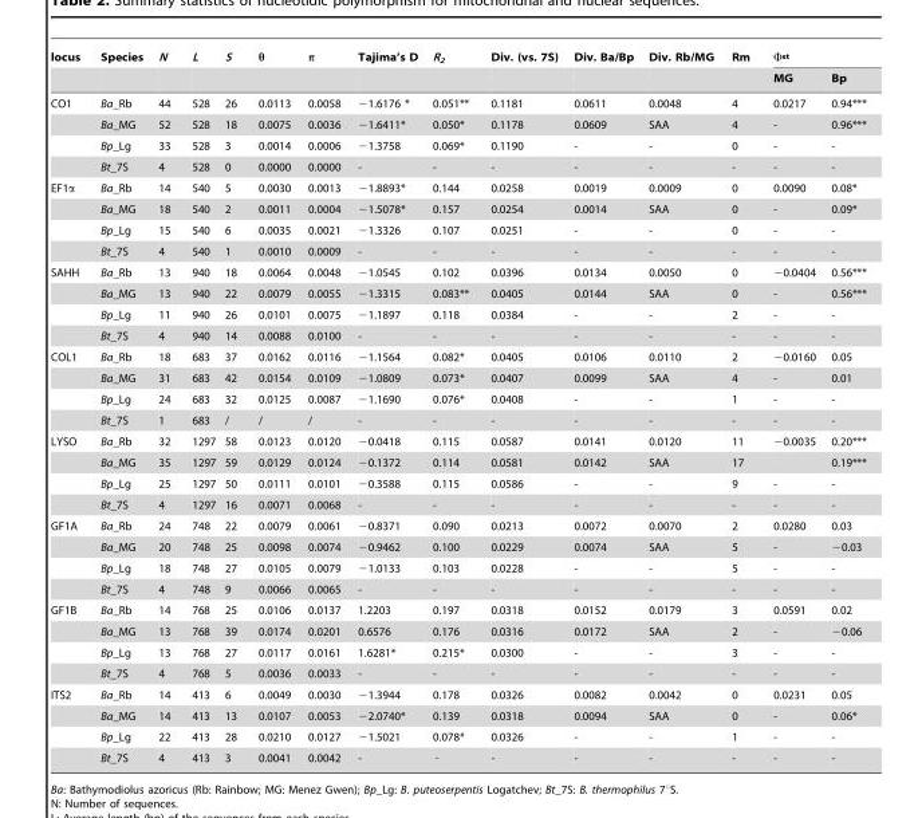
<table><thead><tr><td rowspan="2">locus</td><td rowspan="2">Species</td><td rowspan="2">N</td><td rowspan="2">L</td><td rowspan="2">S</td><td rowspan="2">θ</td><td rowspan="2">π</td><td rowspan="2">Tajima’s D</td><td rowspan="2">R<sub>2</sub></td><td rowspan="2">Div. (vs. 7S)</td><td rowspan="2">Div. Ba/Bp</td><td rowspan="2">Div. Rb/MG</td><td rowspan="2">Rm</td><td colspan="2">Ф<sub>st</sub></td></tr><tr><td>MG</td><td>Bp</td></tr></thead><tbody><tr><td rowspan="4">CO1</td><td>Ba_Rb</td><td>44</td><td>528</td><td>26</td><td>0.0113</td><td>0.0058</td><td>−1.6176 *</td><td>0.051**</td><td>0.1181</td><td>0.0611</td><td>0.0048</td><td>4</td><td>0.0217</td><td>0.94***</td></tr><tr><td>Ba_MG</td><td>52</td><td>528</td><td>18</td><td>0.0075</td><td>0.0036</td><td>−1.6411*</td><td>0.050*</td><td>0.1178</td><td>0.0609</td><td>SAA</td><td>4</td><td>-</td><td>0.96***</td></tr><tr><td>Bp_Lg</td><td>33</td><td>528</td><td>3</td><td>0.0014</td><td>0.0006</td><td>−1.3758</td><td>0.069*</td><td>0.1190</td><td>-</td><td>-</td><td>0</td><td>-</td><td>-</td></tr><tr><td>Bt_7S</td><td>4</td><td>528</td><td>0</td><td>0.0000</td><td>0.0000</td><td>-</td><td>-</td><td>-</td><td>-</td><td>-</td><td>-</td><td>-</td><td>-</td></tr><tr><td rowspan="4">EF1α</td><td>Ba_Rb</td><td>14</td><td>540</td><td>5</td><td>0.0030</td><td>0.0013</td><td>−1.8893*</td><td>0.144</td><td>0.0258</td><td>0.0019</td><td>0.0009</td><td>0</td><td>0.0090</td><td>0.08*</td></tr><tr><td>Ba_MG</td><td>18</td><td>540</td><td>2</td><td>0.0011</td><td>0.0004</td><td>−1.5078*</td><td>0.157</td><td>0.0254</td><td>0.0014</td><td>SAA</td><td>0</td><td>-</td><td>0.09*</td></tr><tr><td>Bp_Lg</td><td>15</td><td>540</td><td>6</td><td>0.0035</td><td>0.0021</td><td>−1.3326</td><td>0.107</td><td>0.0251</td><td>-</td><td>-</td><td>0</td><td>-</td><td>-</td></tr><tr><td>Bt_7S</td><td>4</td><td>540</td><td>1</td><td>0.0010</td><td>0.0009</td><td>-</td><td>-</td><td>-</td><td>-</td><td>-</td><td>-</td><td>-</td><td>-</td></tr><tr><td rowspan="4">SAHH</td><td>Ba_Rb</td><td>13</td><td>940</td><td>18</td><td>0.0064</td><td>0.0048</td><td>−1.0545</td><td>0.102</td><td>0.0396</td><td>0.0134</td><td>0.0050</td><td>0</td><td>−0.0404</td><td>0.56***</td></tr><tr><td>Ba_MG</td><td>13</td><td>940</td><td>22</td><td>0.0079</td><td>0.0055</td><td>−1.3315</td><td>0.083**</td><td>0.0405</td><td>0.0144</td><td>SAA</td><td>0</td><td>-</td><td>0.56***</td></tr><tr><td>Bp_Lg</td><td>11</td><td>940</td><td>26</td><td>0.0101</td><td>0.0075</td><td>−1.1897</td><td>0.118</td><td>0.0384</td><td>-</td><td>-</td><td>2</td><td>-</td><td>-</td></tr><tr><td>Bt_7S</td><td>4</td><td>940</td><td>14</td><td>0.0088</td><td>0.0100</td><td>-</td><td>-</td><td>-</td><td>-</td><td>-</td><td>-</td><td>-</td><td>-</td></tr><tr><td rowspan="4">COL1</td><td>Ba_Rb</td><td>18</td><td>683</td><td>37</td><td>0.0162</td><td>0.0116</td><td>−1.1564</td><td>0.082*</td><td>0.0405</td><td>0.0106</td><td>0.0110</td><td>2</td><td>−0.0160</td><td>0.05</td></tr><tr><td>Ba_MG</td><td>31</td><td>683</td><td>42</td><td>0.0154</td><td>0.0109</td><td>−1.0809</td><td>0.073*</td><td>0.0407</td><td>0.0099</td><td>SAA</td><td>4</td><td>-</td><td>0.01</td></tr><tr><td>Bp_Lg</td><td>24</td><td>683</td><td>32</td><td>0.0125</td><td>0.0087</td><td>−1.1690</td><td>0.076*</td><td>0.0408</td><td>-</td><td>-</td><td>1</td><td>-</td><td>-</td></tr><tr><td>Bt_7S</td><td>1</td><td>683</td><td>/</td><td>/</td><td>/</td><td>-</td><td>-</td><td>-</td><td>-</td><td>-</td><td>-</td><td>-</td><td>-</td></tr><tr><td rowspan="4">LYSO</td><td>Ba_Rb</td><td>32</td><td>1297</td><td>58</td><td>0.0123</td><td>0.0120</td><td>−0.0418</td><td>0.115</td><td>0.0587</td><td>0.0141</td><td>0.0120</td><td>11</td><td>−0.0035</td><td>0.20***</td></tr><tr><td>Ba_MG</td><td>35</td><td>1297</td><td>59</td><td>0.0129</td><td>0.0124</td><td>−0.1372</td><td>0.114</td><td>0.0581</td><td>0.0142</td><td>SAA</td><td>17</td><td></td><td>0.19***</td></tr><tr><td>Bp_Lg</td><td>25</td><td>1297</td><td>50</td><td>0.0111</td><td>0.0101</td><td>−0.3588</td><td>0.115</td><td>0.0586</td><td>-</td><td>-</td><td>9</td><td>-</td><td>-</td></tr><tr><td>Bt_7S</td><td>4</td><td>1297</td><td>16</td><td>0.0071</td><td>0.0068</td><td>-</td><td>-</td><td>-</td><td>-</td><td>-</td><td>-</td><td>-</td><td>-</td></tr><tr><td rowspan="4">GF1A</td><td>Ba_Rb</td><td>24</td><td>748</td><td>22</td><td>0.0079</td><td>0.0061</td><td>−0.8371</td><td>0.090</td><td>0.0213</td><td>0.0072</td><td>0.0070</td><td>2</td><td>0.0280</td><td>0.03</td></tr><tr><td>Ba_MG</td><td>20</td><td>748</td><td>25</td><td>0.0098</td><td>0.0074</td><td>−0.9462</td><td>0.100</td><td>0.0229</td><td>0.0074</td><td>SAA</td><td>5</td><td>-</td><td>−0.03</td></tr><tr><td>Bp_Lg</td><td>18</td><td>748</td><td>27</td><td>0.0105</td><td>0.0079</td><td>−1.0133</td><td>0.103</td><td>0.0228</td><td>-</td><td>-</td><td>5</td><td>-</td><td>-</td></tr><tr><td>Bt_7S</td><td>4</td><td>748</td><td>9</td><td>0.0066</td><td>0.0065</td><td>-</td><td>-</td><td>-</td><td>-</td><td>-</td><td>-</td><td>-</td><td>-</td></tr><tr><td rowspan="4">GF1B</td><td>Ba_Rb</td><td>14</td><td>768</td><td>25</td><td>0.0106</td><td>0.0137</td><td>1.2203</td><td>0.197</td><td>0.0318</td><td>0.0152</td><td>0.0179</td><td>3</td><td>0.0591</td><td>0.02</td></tr><tr><td>Ba_MG</td><td>13</td><td>768</td><td>39</td><td>0.0174</td><td>0.0201</td><td>0.6576</td><td>0.176</td><td>0.0316</td><td>0.0172</td><td>SAA</td><td>2</td><td>-</td><td>−0.06</td></tr><tr><td>Bp_Lg</td><td>13</td><td>768</td><td>27</td><td>0.0117</td><td>0.0161</td><td>1.6281*</td><td>0.215*</td><td>0.0300</td><td>-</td><td>-</td><td>3</td><td>-</td><td>-</td></tr><tr><td>Bt_7S</td><td>4</td><td>768</td><td>5</td><td>0.0036</td><td>0.0033</td><td>-</td><td>-</td><td>-</td><td>-</td><td>-</td><td>-</td><td>-</td><td>-</td></tr><tr><td rowspan="4">ITS2</td><td>Ba_Rb</td><td>14</td><td>413</td><td>6</td><td>0.0049</td><td>0.0030</td><td>−1.3944</td><td>0.178</td><td>0.0326</td><td>0.0082</td><td>0.0042</td><td>0</td><td>0.0231</td><td>0.05</td></tr><tr><td>Ba_MG</td><td>14</td><td>413</td><td>13</td><td>0.0107</td><td>0.0053</td><td>−2.0740*</td><td>0.139</td><td>0.0318</td><td>0.0094</td><td>SAA</td><td>0</td><td>-</td><td>0.06*</td></tr><tr><td>Bp_Lg</td><td>22</td><td>413</td><td>28</td><td>0.0210</td><td>0.0127</td><td>−1.5021</td><td>0.078*</td><td>0.0326</td><td>-</td><td>-</td><td>1</td><td>-</td><td>-</td></tr><tr><td>Bt_7S</td><td>4</td><td>413</td><td>3</td><td>0.0041</td><td>0.0042</td><td>-</td><td>-</td><td>-</td><td>-</td><td>-</td><td>-</td><td>-</td><td>-</td></tr></tbody></table>